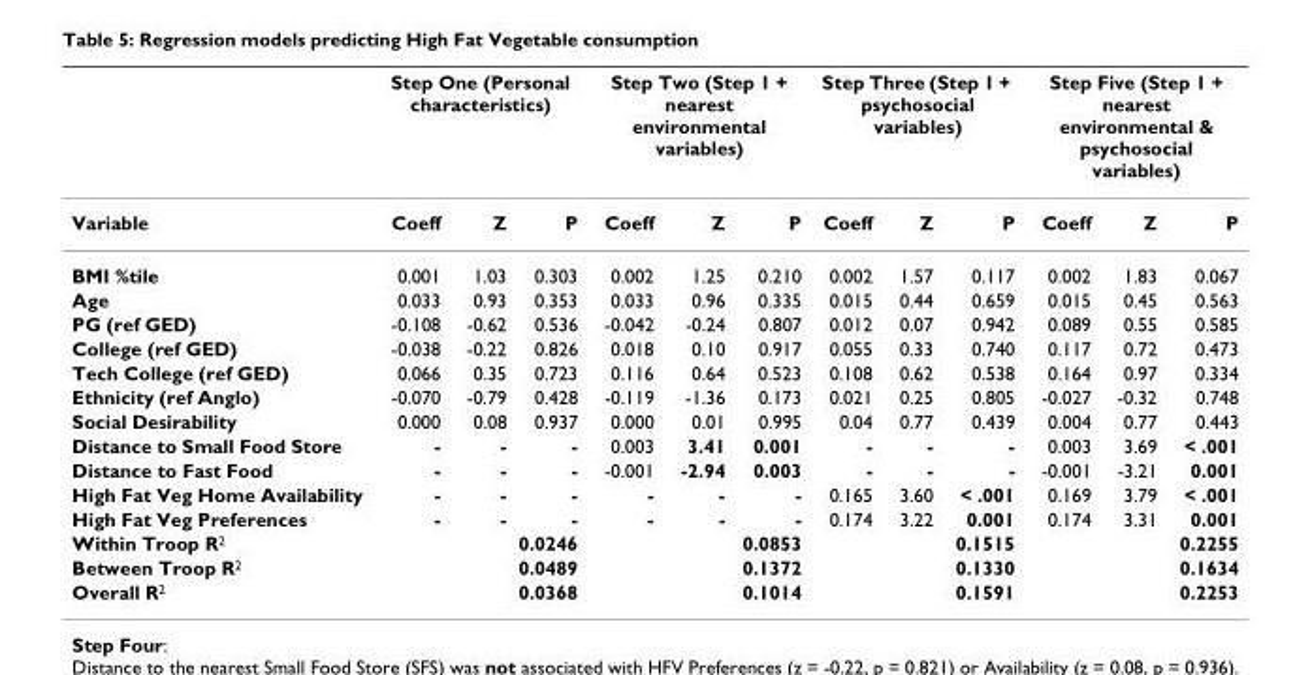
<table><thead><tr><td rowspan="2">Variable</td><td colspan="3">Step One (Personal characteristics)</td><td colspan="3">Step Two (Step 1 + nearest environmental variables)</td><td colspan="3">Step Three (Step 1 + psychosocial variables)</td><td colspan="3">Step Five (Step 1 + nearest environmental &amp; psychosocial variables)</td></tr><tr><td>Coeff</td><td>Z</td><td>P</td><td>Coeff</td><td>Z</td><td>P</td><td>Coeff</td><td>Z</td><td>P</td><td>Coeff</td><td>Z</td><td>P</td></tr></thead><tbody><tr><td>BMI %tile</td><td>0.001</td><td>1.03</td><td>0.303</td><td>0.002</td><td>1.25</td><td>0.210</td><td>0.002</td><td>1.57</td><td>0.117</td><td>0.002</td><td>1.83</td><td>0.067</td></tr><tr><td>Age</td><td>0.033</td><td>0.93</td><td>0.353</td><td>0.033</td><td>0.96</td><td>0.335</td><td>0.015</td><td>0.44</td><td>0.659</td><td>0.015</td><td>0.45</td><td>0.563</td></tr><tr><td>PG (ref GED)</td><td>-0.108</td><td>-0.62</td><td>0.536</td><td>-0.042</td><td>-0.24</td><td>0.807</td><td>0.012</td><td>0.07</td><td>0.942</td><td>0.089</td><td>0.55</td><td>0.585</td></tr><tr><td>College (ref GED)</td><td>-0.038</td><td>-0.22</td><td>0.826</td><td>0.018</td><td>0.10</td><td>0.917</td><td>0.055</td><td>0.33</td><td>0.740</td><td>0.117</td><td>0.72</td><td>0.473</td></tr><tr><td>Tech College (ref GED)</td><td>0.066</td><td>0.35</td><td>0.723</td><td>0.116</td><td>0.64</td><td>0.523</td><td>0.108</td><td>0.62</td><td>0.538</td><td>0.164</td><td>0.97</td><td>0.334</td></tr><tr><td>Ethnicity (ref Anglo)</td><td>-0.070</td><td>-0.79</td><td>0.428</td><td>-0.119</td><td>-1.36</td><td>0.173</td><td>0.021</td><td>0.25</td><td>0.805</td><td>-0.027</td><td>-0.32</td><td>0.748</td></tr><tr><td>Social Desirability</td><td>0.000</td><td>0.08</td><td>0.937</td><td>0.000</td><td>0.01</td><td>0.995</td><td>0.04</td><td>0.77</td><td>0.439</td><td>0.004</td><td>0.77</td><td>0.443</td></tr><tr><td>Distance to Small Food Store</td><td>-</td><td>-</td><td>-</td><td>0.003</td><td>3.41</td><td>0.001</td><td>-</td><td>-</td><td>-</td><td>0.003</td><td>3.69</td><td>&lt; .001</td></tr><tr><td>Distance to Fast Food</td><td>-</td><td>-</td><td>-</td><td>-0.001</td><td>-2.94</td><td>0.003</td><td>-</td><td>-</td><td>-</td><td>-0.001</td><td>-3.21</td><td>0.001</td></tr><tr><td>High Fat Veg Home Availability</td><td>-</td><td>-</td><td>-</td><td>-</td><td>-</td><td>-</td><td>0.165</td><td>3.60</td><td>&lt; .001</td><td>0.169</td><td>3.79</td><td>&lt; .001</td></tr><tr><td>High Fat Veg Preferences</td><td>-</td><td>-</td><td>-</td><td>-</td><td>-</td><td>-</td><td>0.174</td><td>3.22</td><td>0.001</td><td>0.174</td><td>3.31</td><td>0.001</td></tr><tr><td>Within Troop R<sup>2</sup></td><td colspan="3">0.0246</td><td colspan="3">0.0853</td><td colspan="3">0.1515</td><td colspan="3">0.2255</td></tr><tr><td>Between Troop R<sup>2</sup></td><td colspan="3">0.0489</td><td colspan="3">0.1372</td><td colspan="3">0.1330</td><td colspan="3">0.1634</td></tr><tr><td>Overall R<sup>2</sup></td><td colspan="3">0.0368</td><td colspan="3">0.1014</td><td colspan="3">0.1591</td><td colspan="3">0.2253</td></tr></tbody></table>